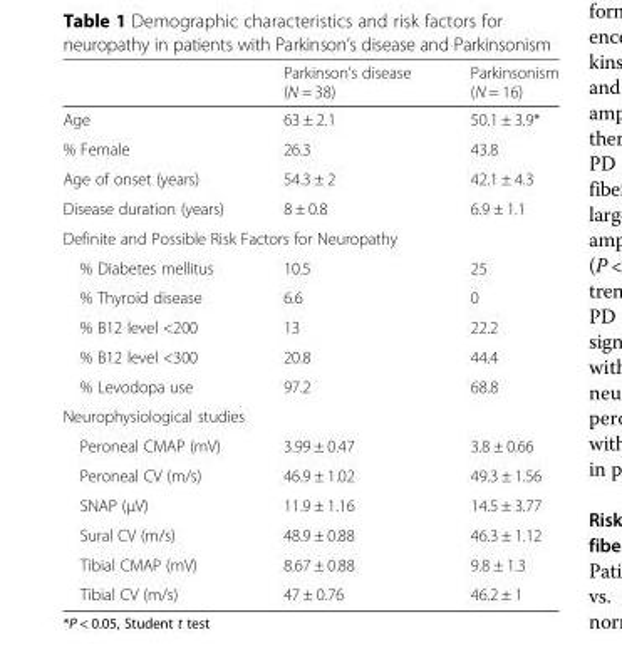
<table><thead><tr><td></td><td>Parkinson’s disease (N = 38)</td><td>Parkinsonism (N = 16)</td></tr></thead><tbody><tr><td>Age</td><td>63 ± 2.1</td><td>50.1 ± 3.9*</td></tr><tr><td>% Female</td><td>26.3</td><td>43.8</td></tr><tr><td>Age of onset (years)</td><td>54.3 ± 2</td><td>42.1 ± 4.3</td></tr><tr><td>Disease duration (years)</td><td>8 ± 0.8</td><td>6.9 ± 1.1</td></tr><tr><td colspan="3">Definite and Possible Risk Factors for Neuropathy</td></tr><tr><td>% Diabetes mellitus</td><td>10.5</td><td>25</td></tr><tr><td>% Thyroid disease</td><td>6.6</td><td>0</td></tr><tr><td>% B12 level &lt;200</td><td>13</td><td>22.2</td></tr><tr><td>% B12 level &lt;300</td><td>20.8</td><td>44.4</td></tr><tr><td>% Levodopa use</td><td>97.2</td><td>68.8</td></tr><tr><td colspan="3">Neurophysiological studies</td></tr><tr><td>Peroneal CMAP (mV)</td><td>3.99 ± 0.47</td><td>3.8 ± 0.66</td></tr><tr><td>Peroneal CV (m/s)</td><td>46.9 ± 1.02</td><td>49.3 ± 1.56</td></tr><tr><td>SNAP (μV)</td><td>11.9 ± 1.16</td><td>14.5 ± 3.77</td></tr><tr><td>Sural CV (m/s)</td><td>48.9 ± 0.88</td><td>46.3 ± 1.12</td></tr><tr><td>Tibial CMAP (mV)</td><td>8.67 ± 0.88</td><td>9.8 ± 1.3</td></tr><tr><td>Tibial CV (m/s)</td><td>47 ± 0.76</td><td>46.2 ± 1</td></tr></tbody></table>